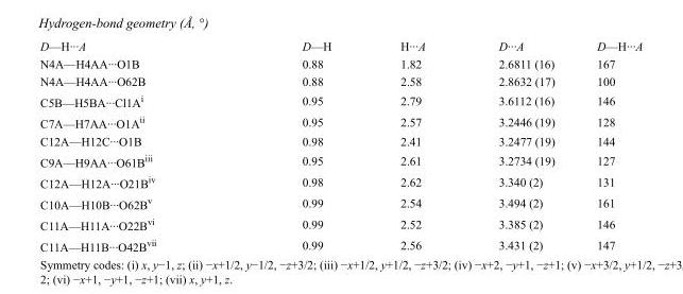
<table><tbody><tr><td>D—H···A</td><td>D—H</td><td>H···A</td><td>D···A</td><td>D—H···A</td></tr><tr><td>N4A—H4AA···O1B</td><td>0.88</td><td>1.82</td><td>2.6811 (16)</td><td>167</td></tr><tr><td>N4A—H4AA···O62B</td><td>0.88</td><td>2.58</td><td>2.8632 (17)</td><td>100</td></tr><tr><td>C5B—H5BA···Cl1A<sup>i</sup></td><td>0.95</td><td>2.79</td><td>3.6112 (16)</td><td>146</td></tr><tr><td>C7A—H7AA···O1A<sup>ii</sup></td><td>0.95</td><td>2.57</td><td>3.2446 (19)</td><td>128</td></tr><tr><td>C12A—H12C···O1B</td><td>0.98</td><td>2.41</td><td>3.2477 (19)</td><td>144</td></tr><tr><td>C9A—H9AA···O61B<sup>iii</sup></td><td>0.95</td><td>2.61</td><td>3.2734 (19)</td><td>127</td></tr><tr><td>C12A—H12A···O21B<sup>iv</sup></td><td>0.98</td><td>2.62</td><td>3.340 (2)</td><td>131</td></tr><tr><td>C10A—H10B···O62B<sup>v</sup></td><td>0.99</td><td>2.54</td><td>3.494 (2)</td><td>161</td></tr><tr><td>C11A—H11A···O22B<sup>vi</sup></td><td>0.99</td><td>2.52</td><td>3.385 (2)</td><td>146</td></tr><tr><td>C11A—H11B···O42B<sup>vii</sup></td><td>0.99</td><td>2.56</td><td>3.431 (2)</td><td>147</td></tr></tbody></table>